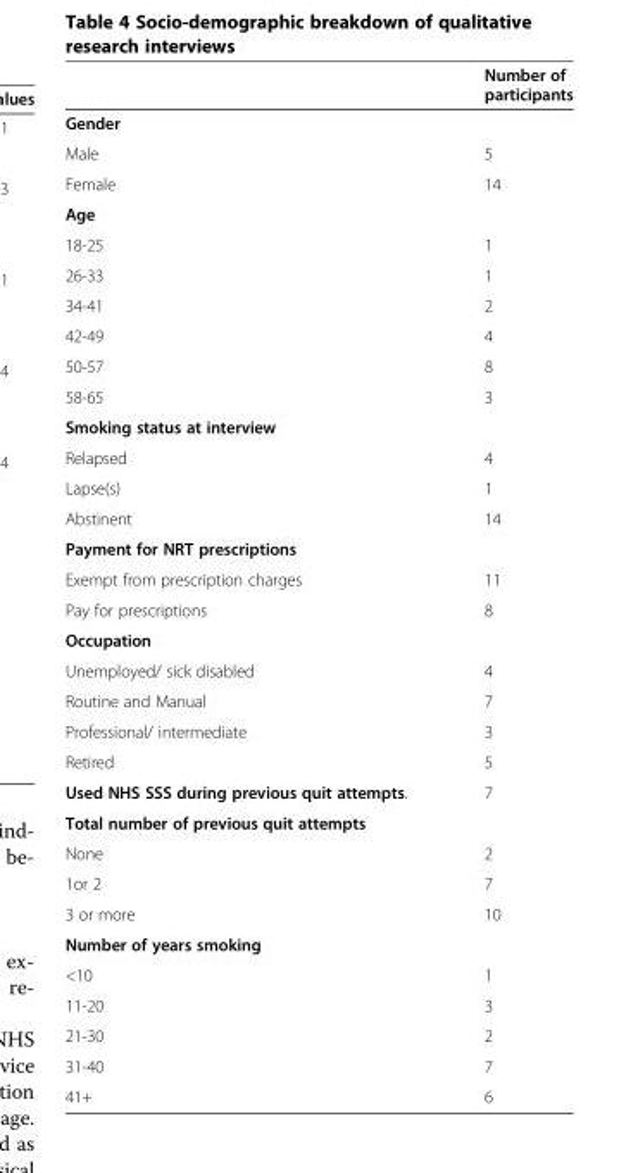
<table><thead><tr><td></td><td>Number of participants</td></tr></thead><tbody><tr><td colspan="2">Gender</td></tr><tr><td>Male</td><td>5</td></tr><tr><td>Female</td><td>14</td></tr><tr><td colspan="2">Age</td></tr><tr><td>18-25</td><td>1</td></tr><tr><td>26-33</td><td>1</td></tr><tr><td>34-41</td><td>2</td></tr><tr><td>42-49</td><td>4</td></tr><tr><td>50-57</td><td>8</td></tr><tr><td>58-65</td><td>3</td></tr><tr><td colspan="2">Smoking status at interview</td></tr><tr><td>Relapsed</td><td>4</td></tr><tr><td>Lapse(s)</td><td>1</td></tr><tr><td>Abstinent</td><td>14</td></tr><tr><td colspan="2">Payment for NRT prescriptions</td></tr><tr><td>Exempt from prescription charges</td><td>11</td></tr><tr><td>Pay for prescriptions</td><td>8</td></tr><tr><td colspan="2">Occupation</td></tr><tr><td>Unemployed/ sick disabled</td><td>4</td></tr><tr><td>Routine and Manual</td><td>7</td></tr><tr><td>Professional/ intermediate</td><td>3</td></tr><tr><td>Retired</td><td>5</td></tr><tr><td>Used NHS SSS during previous quit attempts.</td><td>7</td></tr><tr><td colspan="2">Total number of previous quit attempts</td></tr><tr><td>None</td><td>2</td></tr><tr><td>1or 2</td><td>7</td></tr><tr><td>3 or more</td><td>10</td></tr><tr><td colspan="2">Number of years smoking</td></tr><tr><td>&lt;10</td><td>1</td></tr><tr><td>11-20</td><td>3</td></tr><tr><td>21-30</td><td>2</td></tr><tr><td>31-40</td><td>7</td></tr><tr><td>41+</td><td>6</td></tr></tbody></table>